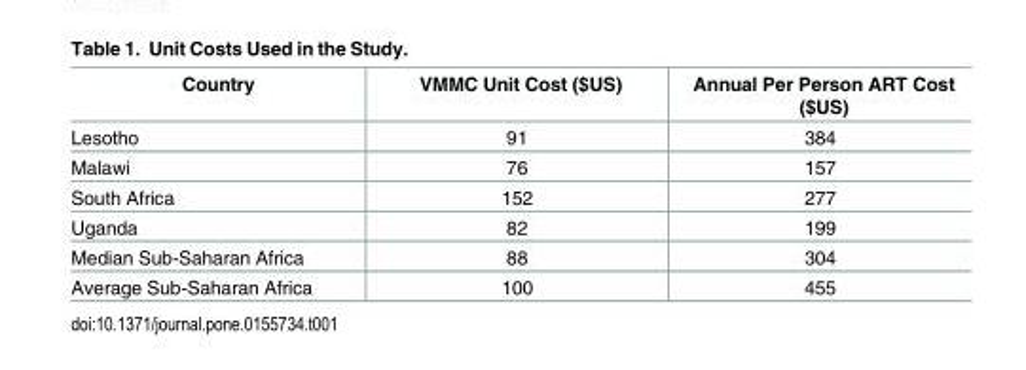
<table><thead><tr><td>Country</td><td>VMMC Unit Cost ($US)</td><td>Annual Per Person ART Cost ($US)</td></tr></thead><tbody><tr><td>Lesotho</td><td>91</td><td>384</td></tr><tr><td>Malawi</td><td>76</td><td>157</td></tr><tr><td>South Africa</td><td>152</td><td>277</td></tr><tr><td>Uganda</td><td>82</td><td>199</td></tr><tr><td>Median Sub-Saharan Africa</td><td>88</td><td>304</td></tr><tr><td>Average Sub-Saharan Africa</td><td>100</td><td>455</td></tr></tbody></table>